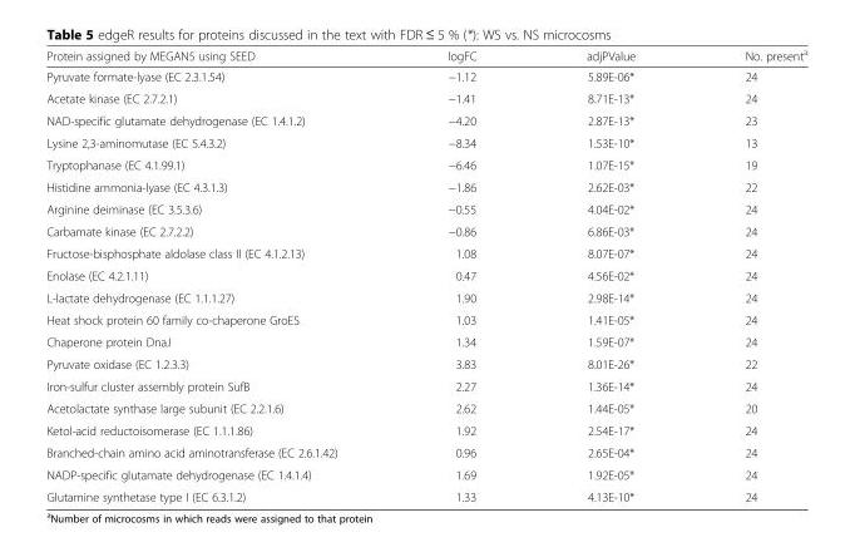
<table><thead><tr><td>Protein assigned by MEGAN5 using SEED</td><td>logFC</td><td>adjPValue</td><td>No. present<sup>a</sup></td></tr></thead><tbody><tr><td>Pyruvate formate-lyase (EC 2.3.1.54)</td><td>−1.12</td><td>5.89E-06*</td><td>24</td></tr><tr><td>Acetate kinase (EC 2.7.2.1)</td><td>−1.41</td><td>8.71E-13*</td><td>24</td></tr><tr><td>NAD-specific glutamate dehydrogenase (EC 1.4.1.2)</td><td>−4.20</td><td>2.87E-13*</td><td>23</td></tr><tr><td>Lysine 2,3-aminomutase (EC 5.4.3.2)</td><td>−8.34</td><td>1.53E-10*</td><td>13</td></tr><tr><td>Tryptophanase (EC 4.1.99.1)</td><td>−6.46</td><td>1.07E-15*</td><td>19</td></tr><tr><td>Histidine ammonia-lyase (EC 4.3.1.3)</td><td>−1.86</td><td>2.62E-03*</td><td>22</td></tr><tr><td>Arginine deiminase (EC 3.5.3.6)</td><td>−0.55</td><td>4.04E-02*</td><td>24</td></tr><tr><td>Carbamate kinase (EC 2.7.2.2)</td><td>−0.86</td><td>6.86E-03*</td><td>24</td></tr><tr><td>Fructose-bisphosphate aldolase class II (EC 4.1.2.13)</td><td>1.08</td><td>8.07E-07*</td><td>24</td></tr><tr><td>Enolase (EC 4.2.1.11)</td><td>0.47</td><td>4.56E-02*</td><td>24</td></tr><tr><td>L-lactate dehydrogenase (EC 1.1.1.27)</td><td>1.90</td><td>2.98E-14*</td><td>24</td></tr><tr><td>Heat shock protein 60 family co-chaperone GroES</td><td>1.03</td><td>1.41E-05*</td><td>24</td></tr><tr><td>Chaperone protein DnaJ</td><td>1.34</td><td>1.59E-07*</td><td>24</td></tr><tr><td>Pyruvate oxidase (EC 1.2.3.3)</td><td>3.83</td><td>8.01E-26*</td><td>22</td></tr><tr><td>Iron-sulfur cluster assembly protein SufB</td><td>2.27</td><td>1.36E-14*</td><td>24</td></tr><tr><td>Acetolactate synthase large subunit (EC 2.2.1.6)</td><td>2.62</td><td>1.44E-05*</td><td>20</td></tr><tr><td>Ketol-acid reductoisomerase (EC 1.1.1.86)</td><td>1.92</td><td>2.54E-17*</td><td>24</td></tr><tr><td>Branched-chain amino acid aminotransferase (EC 2.6.1.42)</td><td>0.96</td><td>2.65E-04*</td><td>24</td></tr><tr><td>NADP-specific glutamate dehydrogenase (EC 1.4.1.4)</td><td>1.69</td><td>1.92E-05*</td><td>24</td></tr><tr><td>Glutamine synthetase type I (EC 6.3.1.2)</td><td>1.33</td><td>4.13E-10*</td><td>24</td></tr></tbody></table>